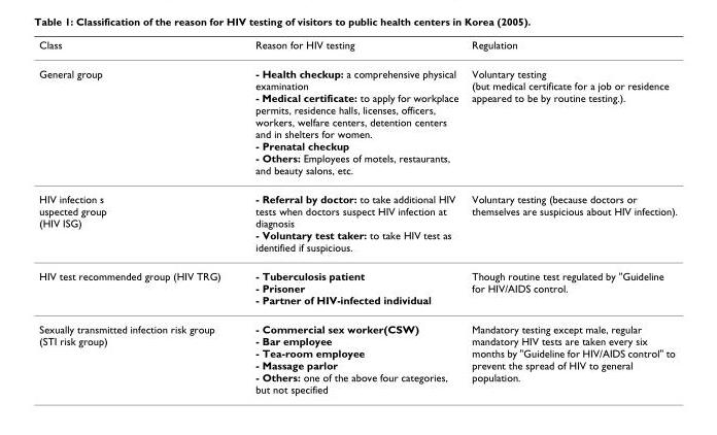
<table><thead><tr><td>Class</td><td>Reason for HIV testing</td><td>Regulation</td></tr></thead><tbody><tr><td>General group</td><td>- Health checkup: a comprehensive physical examination - Medical certificate: to apply for workplace permits, residence halls, licenses, officers, workers, welfare centers, detention centers and in shelters for women. - Prenatal checkup - Others: Employees of motels, restaurants, and beauty salons, etc.</td><td>Voluntary testing (but medical certificate for a job or residence appeared to be by routine testing.).</td></tr><tr><td>HIV infection s uspected group (HIV ISG)</td><td>- Referral by doctor: to take additional HIV tests when doctors suspect HIV infection at diagnosis - Voluntary test taker: to take HIV test as identified if suspicious.</td><td>Voluntary testing (because doctors or themselves are suspicious about HIV infection).</td></tr><tr><td>HIV test recommended group (HIV TRG)</td><td>- Tuberculosis patient - Prisoner - Partner of HIV-infected individual</td><td>Though routine test regulated by &quot;Guideline for HIV/AIDS control.</td></tr><tr><td>Sexually transmitted infection risk group (STI risk group)</td><td>- Commercial sex worker(CSW) - Bar employee - Tea-room employee - Massage parlor - Others: one of the above four categories, but not specified</td><td>Mandatory testing except male, regular mandatory HIV tests are taken every six months by &quot;Guideline for HIV/AIDS control&quot; to prevent the spread of HIV to general population.</td></tr></tbody></table>